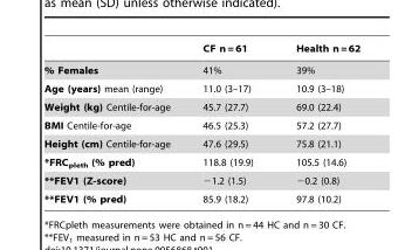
<table><thead><tr><td></td><td>CF n = 61</td><td>Health n = 62</td></tr></thead><tbody><tr><td>% Females</td><td>41%</td><td>39%</td></tr><tr><td>Age (years) mean (range)</td><td>11.0 (3–17)</td><td>10.9 (3–18)</td></tr><tr><td>Weight (kg) Centile-for-age</td><td>45.7 (27.7)</td><td>69.0 (22.4)</td></tr><tr><td>BMI Centile-for-age</td><td>46.5 (25.3)</td><td>57.2 (27.7)</td></tr><tr><td>Height (cm) Centile-for-age</td><td>47.6 (29.5)</td><td>75.8 (21.1)</td></tr><tr><td>*FRC<sub>pleth</sub> (% pred)</td><td>118.8 (19.9)</td><td>105.5 (14.6)</td></tr><tr><td>**FEV1 (Z-score)</td><td>−1.2 (1.5)</td><td>−0.2 (0.8)</td></tr><tr><td>**FEV1 (% pred)</td><td>85.9 (18.2)</td><td>97.8 (10.2)</td></tr></tbody></table>